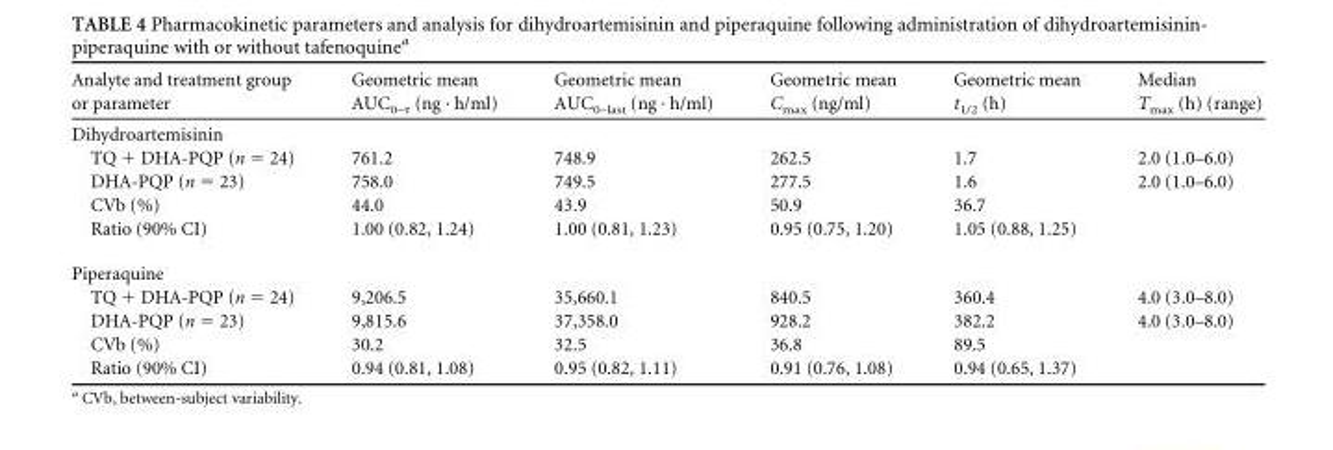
<table><thead><tr><td>Analyte and treatment group or parameter</td><td>Geometric mean AUC<sub>0–τ</sub> (ng · h/ml)</td><td>Geometric mean AUC<sub>0–last</sub> (ng · h/ml)</td><td>Geometric mean C<sub>max</sub> (ng/ml)</td><td>Geometric mean t<sub>1/2</sub> (h)</td><td>Median T<sub>max</sub> (h) (range)</td></tr></thead><tbody><tr><td colspan="6">Dihydroartemisinin</td></tr><tr><td>TQ + DHA-PQP (n = 24)</td><td>761.2</td><td>748.9</td><td>262.5</td><td>1.7</td><td>2.0 (1.0–6.0)</td></tr><tr><td>DHA-PQP (n = 23)</td><td>758.0</td><td>749.5</td><td>277.5</td><td>1.6</td><td>2.0 (1.0–6.0)</td></tr><tr><td>CVb (%)</td><td>44.0</td><td>43.9</td><td>50.9</td><td>36.7</td><td></td></tr><tr><td>Ratio (90% CI)</td><td>1.00 (0.82, 1.24)</td><td>1.00 (0.81, 1.23)</td><td>0.95 (0.75, 1.20)</td><td>1.05 (0.88, 1.25)</td><td></td></tr><tr><td colspan="6">Piperaquine</td></tr><tr><td>TQ + DHA-PQP (n = 24)</td><td>9,206.5</td><td>35,660.1</td><td>840.5</td><td>360.4</td><td>4.0 (3.0–8.0)</td></tr><tr><td>DHA-PQP (n = 23)</td><td>9,815.6</td><td>37,358.0</td><td>928.2</td><td>382.2</td><td>4.0 (3.0–8.0)</td></tr><tr><td>CVb (%)</td><td>30.2</td><td>32.5</td><td>36.8</td><td>89.5</td><td></td></tr><tr><td>Ratio (90% CI)</td><td>0.94 (0.81, 1.08)</td><td>0.95 (0.82, 1.11)</td><td>0.91 (0.76, 1.08)</td><td>0.94 (0.65, 1.37)</td><td></td></tr></tbody></table>